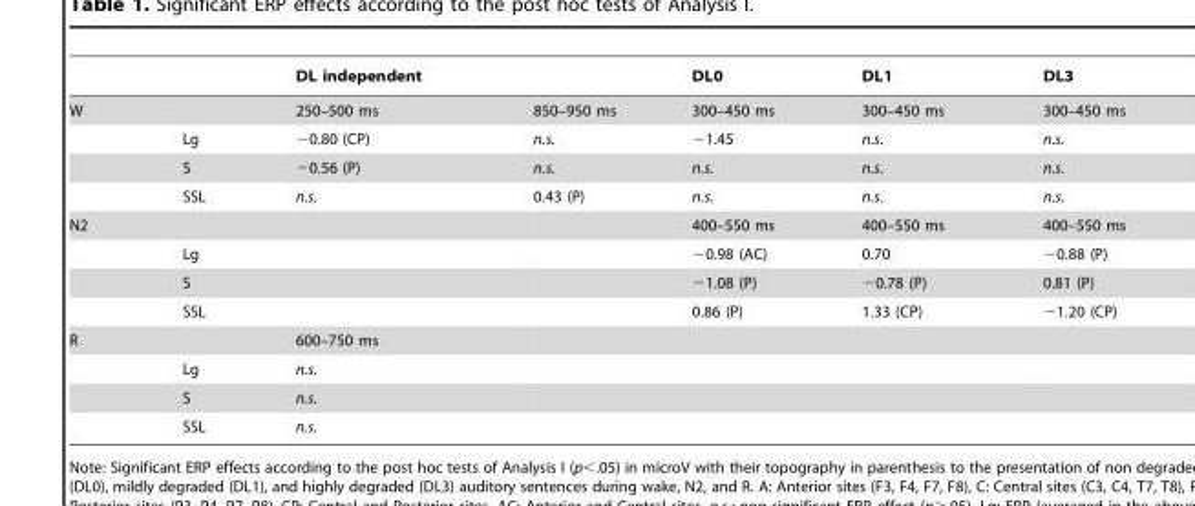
<table><thead><tr><td></td><td></td><td>DL independent</td><td></td><td>DL0</td><td>DL1</td><td>DL3</td></tr></thead><tbody><tr><td rowspan="4">W</td><td></td><td>250–500 ms</td><td>850–950 ms</td><td>300–450 ms</td><td>300–450 ms</td><td>300–450 ms</td></tr><tr><td>Lg</td><td>−0.80 (CP)</td><td>n.s.</td><td>−1.45</td><td>n.s.</td><td>n.s.</td></tr><tr><td>S</td><td>−0.56 (P)</td><td>n.s.</td><td>n.s.</td><td>n.s.</td><td>n.s.</td></tr><tr><td>SSL</td><td>n.s.</td><td>0.43 (P)</td><td>n.s.</td><td>n.s.</td><td>n.s.</td></tr><tr><td rowspan="4">N2</td><td></td><td></td><td></td><td>400–550 ms</td><td>400–550 ms</td><td>400–550 ms</td></tr><tr><td>Lg</td><td></td><td></td><td>−0.98 (AC)</td><td>0.70</td><td>−0.88 (P)</td></tr><tr><td>S</td><td></td><td></td><td>−1.08 (P)</td><td>−0.78 (P)</td><td>0.81 (P)</td></tr><tr><td>SSL</td><td></td><td></td><td>0.86 (P)</td><td>1.33 (CP)</td><td>−1.20 (CP)</td></tr><tr><td rowspan="4">R</td><td></td><td>600–750 ms</td><td></td><td></td><td></td><td></td></tr><tr><td>Lg</td><td>n.s.</td><td></td><td></td><td></td><td></td></tr><tr><td>S</td><td>n.s.</td><td></td><td></td><td></td><td></td></tr><tr><td>SSL</td><td>n.s.</td><td></td><td></td><td></td><td></td></tr></tbody></table>